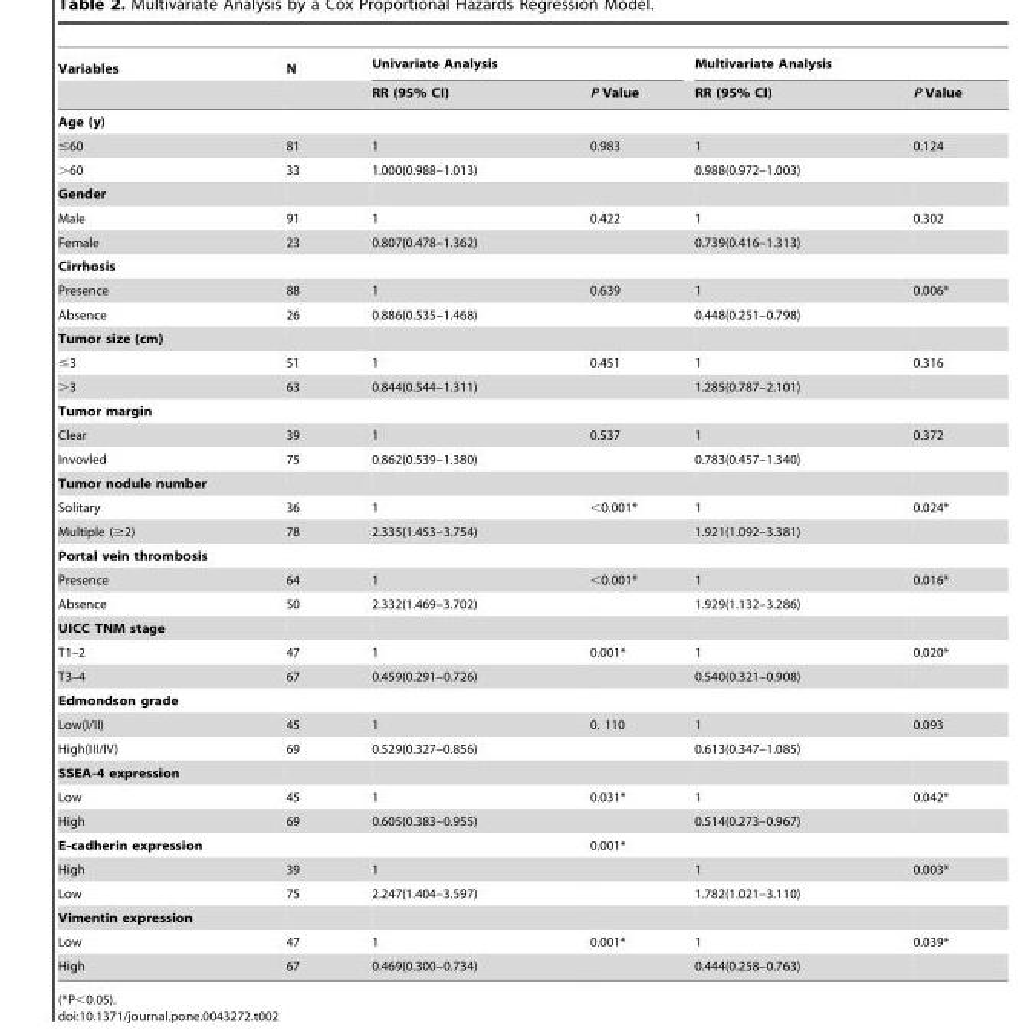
<table><thead><tr><td rowspan="2">Variables</td><td rowspan="2">N</td><td colspan="2">Univariate Analysis</td><td colspan="2">Multivariate Analysis</td></tr><tr><td>RR (95% CI)</td><td>P Value</td><td>RR (95% CI)</td><td>P Value</td></tr></thead><tbody><tr><td colspan="6">Age (y)</td></tr><tr><td>≤60</td><td>81</td><td>1</td><td>0.983</td><td>1</td><td>0.124</td></tr><tr><td>&gt;60</td><td>33</td><td>1.000(0.988–1.013)</td><td></td><td>0.988(0.972–1.003)</td><td></td></tr><tr><td colspan="6">Gender</td></tr><tr><td>Male</td><td>91</td><td>1</td><td>0.422</td><td>1</td><td>0.302</td></tr><tr><td>Female</td><td>23</td><td>0.807(0.478–1.362)</td><td></td><td>0.739(0.416–1.313)</td><td></td></tr><tr><td colspan="6">Cirrhosis</td></tr><tr><td>Presence</td><td>88</td><td>1</td><td>0.639</td><td>1</td><td>0.006*</td></tr><tr><td>Absence</td><td>26</td><td>0.886(0.535–1.468)</td><td></td><td>0.448(0.251–0.798)</td><td></td></tr><tr><td colspan="6">Tumor size (cm)</td></tr><tr><td>≤3</td><td>51</td><td>1</td><td>0.451</td><td>1</td><td>0.316</td></tr><tr><td>&gt;3</td><td>63</td><td>0.844(0.544–1.311)</td><td></td><td>1.285(0.787–2.101)</td><td></td></tr><tr><td colspan="6">Tumor margin</td></tr><tr><td>Clear</td><td>39</td><td>1</td><td>0.537</td><td>1</td><td>0.372</td></tr><tr><td>Invovled</td><td>75</td><td>0.862(0.539–1.380)</td><td></td><td>0.783(0.457–1.340)</td><td></td></tr><tr><td colspan="6">Tumor nodule number</td></tr><tr><td>Solitary</td><td>36</td><td>1</td><td>&lt;0.001*</td><td>1</td><td>0.024*</td></tr><tr><td>Multiple (≥2)</td><td>78</td><td>2.335(1.453–3.754)</td><td></td><td>1.921(1.092–3.381)</td><td></td></tr><tr><td colspan="6">Portal vein thrombosis</td></tr><tr><td>Presence</td><td>64</td><td>1</td><td>&lt;0.001*</td><td>1</td><td>0.016*</td></tr><tr><td>Absence</td><td>50</td><td>2.332(1.469–3.702)</td><td></td><td>1.929(1.132–3.286)</td><td></td></tr><tr><td colspan="6">UICC TNM stage</td></tr><tr><td>T1–2</td><td>47</td><td>1</td><td>0.001*</td><td>1</td><td>0.020*</td></tr><tr><td>T3–4</td><td>67</td><td>0.459(0.291–0.726)</td><td></td><td>0.540(0.321–0.908)</td><td></td></tr><tr><td colspan="6">Edmondson grade</td></tr><tr><td>Low(I/II)</td><td>45</td><td>1</td><td>0. 110</td><td>1</td><td>0.093</td></tr><tr><td>High(III/IV)</td><td>69</td><td>0.529(0.327–0.856)</td><td></td><td>0.613(0.347–1.085)</td><td></td></tr><tr><td colspan="6">SSEA-4 expression</td></tr><tr><td>Low</td><td>45</td><td>1</td><td>0.031*</td><td>1</td><td>0.042*</td></tr><tr><td>High</td><td>69</td><td>0.605(0.383–0.955)</td><td></td><td>0.514(0.273–0.967)</td><td></td></tr><tr><td>E-cadherin expression</td><td></td><td></td><td>0.001*</td><td></td><td></td></tr><tr><td>High</td><td>39</td><td>1</td><td></td><td>1</td><td>0.003*</td></tr><tr><td>Low</td><td>75</td><td>2.247(1.404–3.597)</td><td></td><td>1.782(1.021–3.110)</td><td></td></tr><tr><td colspan="6">Vimentin expression</td></tr><tr><td>Low</td><td>47</td><td>1</td><td>0.001*</td><td>1</td><td>0.039*</td></tr><tr><td>High</td><td>67</td><td>0.469(0.300–0.734)</td><td></td><td>0.444(0.258–0.763)</td><td></td></tr></tbody></table>